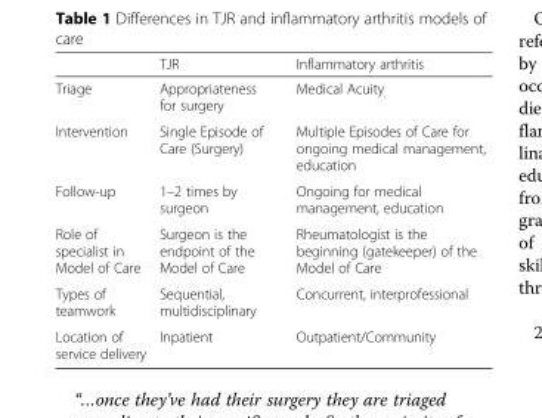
<table><thead><tr><td></td><td>TJR</td><td>Inflammatory arthritis</td></tr></thead><tbody><tr><td>Triage</td><td>Appropriateness for surgery</td><td>Medical Acuity</td></tr><tr><td>Intervention</td><td>Single Episode of Care (Surgery)</td><td>Multiple Episodes of Care for ongoing medical management, education</td></tr><tr><td>Follow-up</td><td>1–2 times by surgeon</td><td>Ongoing for medical management, education</td></tr><tr><td>Role of specialist in Model of Care</td><td>Surgeon is the endpoint of the Model of Care</td><td>Rheumatologist is the beginning (gatekeeper) of the Model of Care</td></tr><tr><td>Types of teamwork</td><td>Sequential, multidisciplinary</td><td>Concurrent, interprofessional</td></tr><tr><td>Location of service delivery</td><td>Inpatient</td><td>Outpatient/Community</td></tr></tbody></table>